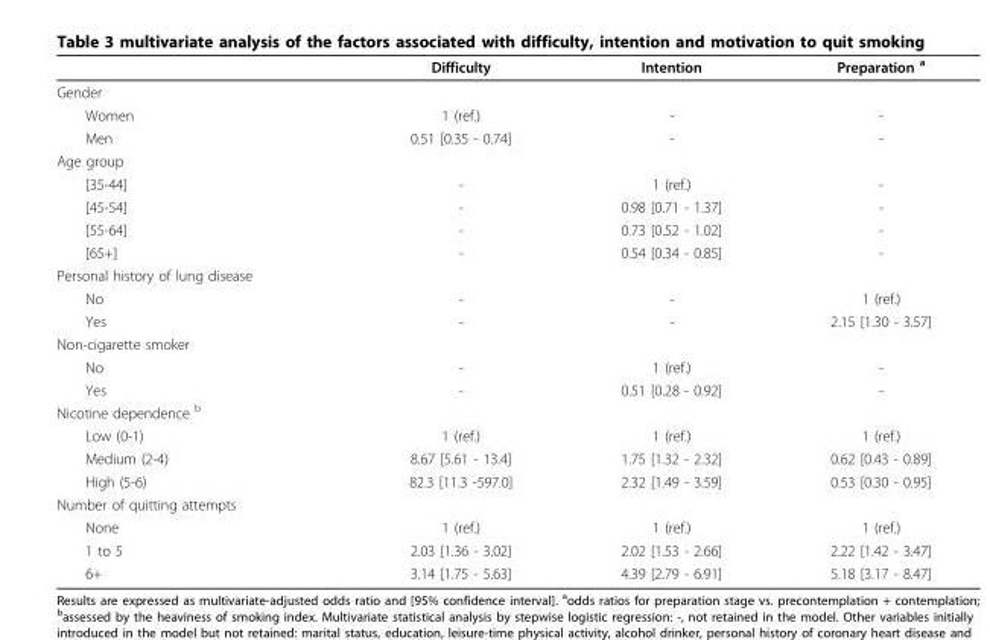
<table><thead><tr><td></td><td>Difficulty</td><td>Intention</td><td>Preparation <sup>a</sup></td></tr></thead><tbody><tr><td colspan="4">Gender</td></tr><tr><td>Women</td><td>1 (ref.)</td><td>-</td><td>-</td></tr><tr><td>Men</td><td>0.51 [0.35 - 0.74]</td><td>-</td><td>-</td></tr><tr><td colspan="4">Age group</td></tr><tr><td>[35-44]</td><td>-</td><td>1 (ref.)</td><td>-</td></tr><tr><td>[45-54]</td><td>-</td><td>0.98 [0.71 - 1.37]</td><td>-</td></tr><tr><td>[55-64]</td><td>-</td><td>0.73 [0.52 - 1.02]</td><td>-</td></tr><tr><td>[65+]</td><td>-</td><td>0.54 [0.34 - 0.85]</td><td>-</td></tr><tr><td colspan="4">Personal history of lung disease</td></tr><tr><td>No</td><td>-</td><td>-</td><td>1 (ref.)</td></tr><tr><td>Yes</td><td>-</td><td>-</td><td>2.15 [1.30 - 3.57]</td></tr><tr><td colspan="4">Non-cigarette smoker</td></tr><tr><td>No</td><td>-</td><td>1 (ref.)</td><td>-</td></tr><tr><td>Yes</td><td>-</td><td>0.51 [0.28 - 0.92]</td><td>-</td></tr><tr><td colspan="4">Nicotine dependence <sup>b</sup></td></tr><tr><td>Low (0-1)</td><td>1 (ref.)</td><td>1 (ref.)</td><td>1 (ref.)</td></tr><tr><td>Medium (2-4)</td><td>8.67 [5.61 - 13.4]</td><td>1.75 [1.32 - 2.32]</td><td>0.62 [0.43 - 0.89]</td></tr><tr><td>High (5-6)</td><td>82.3 [11.3 -597.0]</td><td>2.32 [1.49 - 3.59]</td><td>0.53 [0.30 - 0.95]</td></tr><tr><td colspan="4">Number of quitting attempts</td></tr><tr><td>None</td><td>1 (ref.)</td><td>1 (ref.)</td><td>1 (ref.)</td></tr><tr><td>1 to 5</td><td>2.03 [1.36 - 3.02]</td><td>2.02 [1.53 - 2.66]</td><td>2.22 [1.42 - 3.47]</td></tr><tr><td>6+</td><td>3.14 [1.75 - 5.63]</td><td>4.39 [2.79 - 6.91]</td><td>5.18 [3.17 - 8.47]</td></tr></tbody></table>